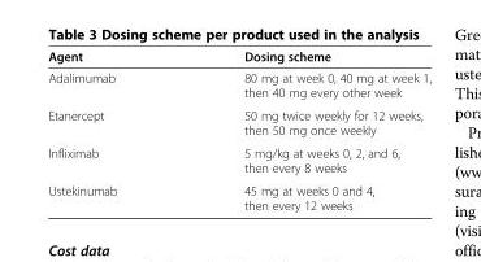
<table><thead><tr><td>Agent</td><td>Dosing scheme</td></tr></thead><tbody><tr><td>Adalimumab</td><td>80 mg at week 0, 40 mg at week 1, then 40 mg every other week</td></tr><tr><td>Etanercept</td><td>50 mg twice weekly for 12 weeks, then 50 mg once weekly</td></tr><tr><td>Infliximab</td><td>5 mg/kg at weeks 0, 2, and 6, then every 8 weeks</td></tr><tr><td>Ustekinumab</td><td>45 mg at weeks 0 and 4, then every 12 weeks</td></tr></tbody></table>